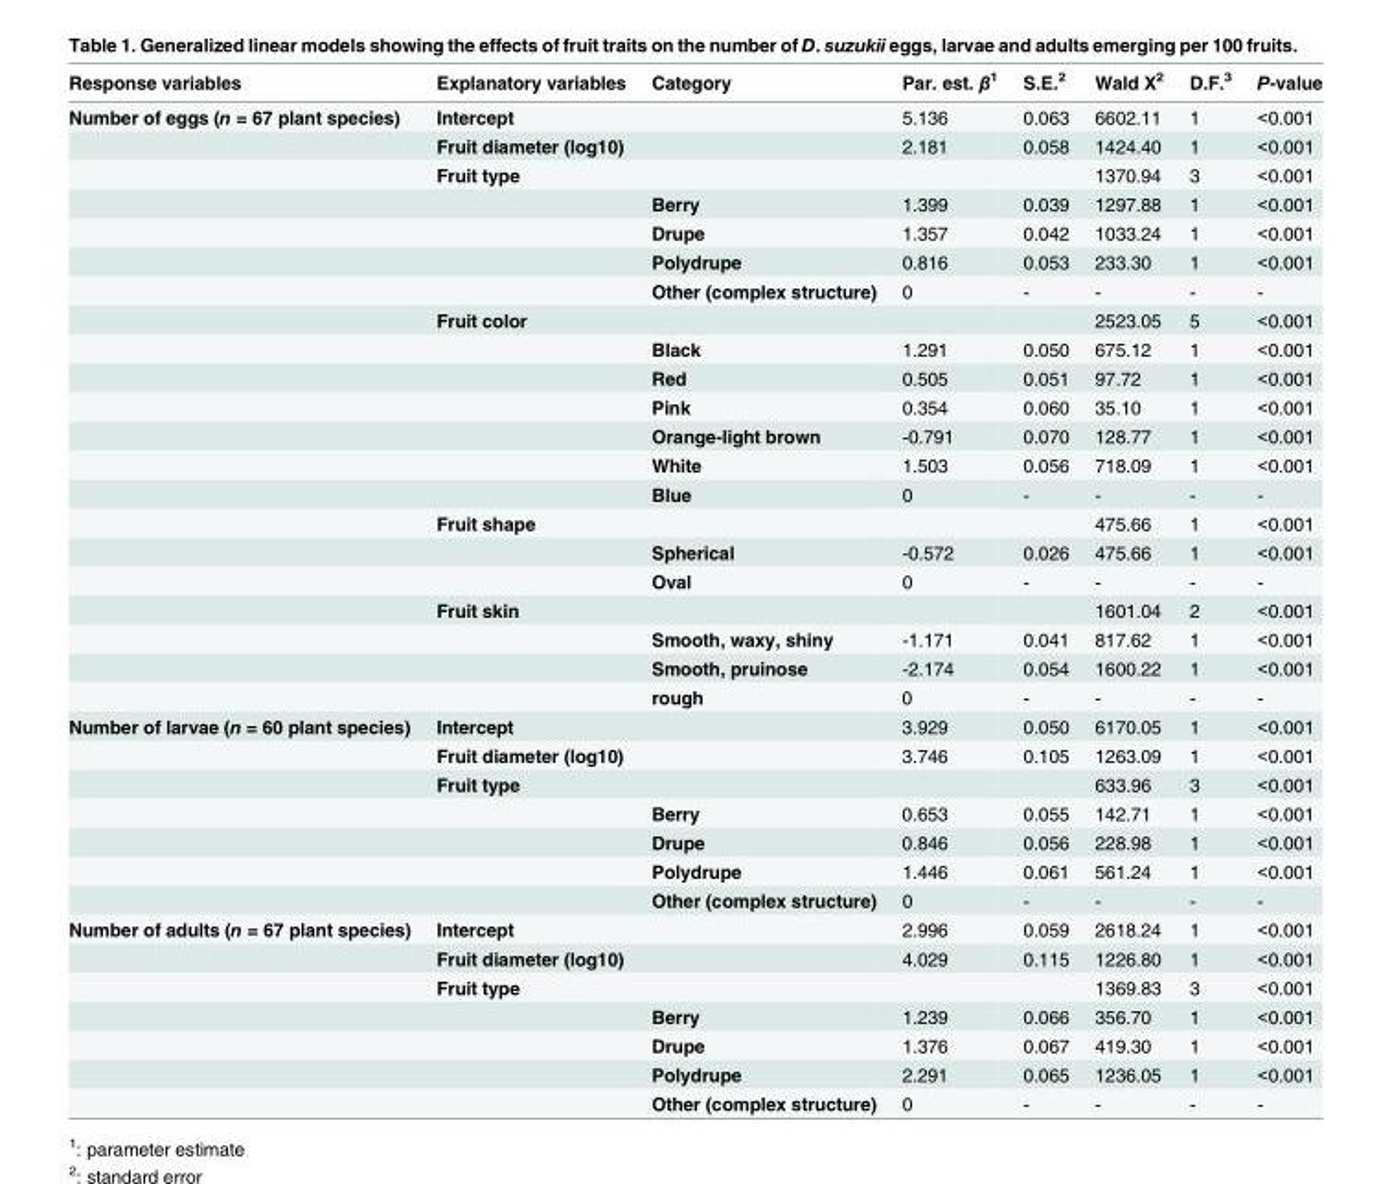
<table><thead><tr><td>Response variables</td><td>Explanatory variables</td><td>Category</td><td>Par. est. β<sup>1</sup></td><td>S.E.<sup>2</sup></td><td>Wald X<sup>2</sup></td><td>D.F.<sup>3</sup></td><td>P-value</td></tr></thead><tbody><tr><td rowspan="21">Number of eggs (n = 67 plant species)</td><td>Intercept</td><td></td><td>5.136</td><td>0.063</td><td>6602.11</td><td>1</td><td>&lt;0.001</td></tr><tr><td>Fruit diameter (log10)</td><td></td><td>2.181</td><td>0.058</td><td>1424.40</td><td>1</td><td>&lt;0.001</td></tr><tr><td>Fruit type</td><td></td><td></td><td></td><td>1370.94</td><td>3</td><td>&lt;0.001</td></tr><tr><td></td><td>Berry</td><td>1.399</td><td>0.039</td><td>1297.88</td><td>1</td><td>&lt;0.001</td></tr><tr><td></td><td>Drupe</td><td>1.357</td><td>0.042</td><td>1033.24</td><td>1</td><td>&lt;0.001</td></tr><tr><td></td><td>Polydrupe</td><td>0.816</td><td>0.053</td><td>233.30</td><td>1</td><td>&lt;0.001</td></tr><tr><td></td><td>Other (complex structure)</td><td>0</td><td>-</td><td>-</td><td>-</td><td>-</td></tr><tr><td>Fruit color</td><td></td><td></td><td></td><td>2523.05</td><td>5</td><td>&lt;0.001</td></tr><tr><td></td><td>Black</td><td>1.291</td><td>0.050</td><td>675.12</td><td>1</td><td>&lt;0.001</td></tr><tr><td></td><td>Red</td><td>0.505</td><td>0.051</td><td>97.72</td><td>1</td><td>&lt;0.001</td></tr><tr><td></td><td>Pink</td><td>0.354</td><td>0.060</td><td>35.10</td><td>1</td><td>&lt;0.001</td></tr><tr><td></td><td>Orange-light brown</td><td>-0.791</td><td>0.070</td><td>128.77</td><td>1</td><td>&lt;0.001</td></tr><tr><td></td><td>White</td><td>1.503</td><td>0.056</td><td>718.09</td><td>1</td><td>&lt;0.001</td></tr><tr><td></td><td>Blue</td><td>0</td><td>-</td><td>-</td><td>-</td><td>-</td></tr><tr><td>Fruit shape</td><td></td><td></td><td></td><td>475.66</td><td>1</td><td>&lt;0.001</td></tr><tr><td></td><td>Spherical</td><td>-0.572</td><td>0.026</td><td>475.66</td><td>1</td><td>&lt;0.001</td></tr><tr><td></td><td>Oval</td><td>0</td><td>-</td><td>-</td><td>-</td><td>-</td></tr><tr><td>Fruit skin</td><td></td><td></td><td></td><td>1601.04</td><td>2</td><td>&lt;0.001</td></tr><tr><td></td><td>Smooth, waxy, shiny</td><td>-1.171</td><td>0.041</td><td>817.62</td><td>1</td><td>&lt;0.001</td></tr><tr><td></td><td>Smooth, pruinose</td><td>-2.174</td><td>0.054</td><td>1600.22</td><td>1</td><td>&lt;0.001</td></tr><tr><td></td><td>rough</td><td>0</td><td>-</td><td>-</td><td>-</td><td>-</td></tr><tr><td rowspan="7">Number of larvae (n = 60 plant species)</td><td>Intercept</td><td></td><td>3.929</td><td>0.050</td><td>6170.05</td><td>1</td><td>&lt;0.001</td></tr><tr><td>Fruit diameter (log10)</td><td></td><td>3.746</td><td>0.105</td><td>1263.09</td><td>1</td><td>&lt;0.001</td></tr><tr><td>Fruit type</td><td></td><td></td><td></td><td>633.96</td><td>3</td><td>&lt;0.001</td></tr><tr><td></td><td>Berry</td><td>0.653</td><td>0.055</td><td>142.71</td><td>1</td><td>&lt;0.001</td></tr><tr><td></td><td>Drupe</td><td>0.846</td><td>0.056</td><td>228.98</td><td>1</td><td>&lt;0.001</td></tr><tr><td></td><td>Polydrupe</td><td>1.446</td><td>0.061</td><td>561.24</td><td>1</td><td>&lt;0.001</td></tr><tr><td></td><td>Other (complex structure)</td><td>0</td><td>-</td><td>-</td><td>-</td><td>-</td></tr><tr><td rowspan="7">Number of adults (n = 67 plant species)</td><td>Intercept</td><td></td><td>2.996</td><td>0.059</td><td>2618.24</td><td>1</td><td>&lt;0.001</td></tr><tr><td>Fruit diameter (log10)</td><td></td><td>4.029</td><td>0.115</td><td>1226.80</td><td>1</td><td>&lt;0.001</td></tr><tr><td>Fruit type</td><td></td><td></td><td></td><td>1369.83</td><td>3</td><td>&lt;0.001</td></tr><tr><td></td><td>Berry</td><td>1.239</td><td>0.066</td><td>356.70</td><td>1</td><td>&lt;0.001</td></tr><tr><td></td><td>Drupe</td><td>1.376</td><td>0.067</td><td>419.30</td><td>1</td><td>&lt;0.001</td></tr><tr><td></td><td>Polydrupe</td><td>2.291</td><td>0.065</td><td>1236.05</td><td>1</td><td>&lt;0.001</td></tr><tr><td></td><td>Other (complex structure)</td><td>0</td><td>-</td><td>-</td><td>-</td><td>-</td></tr></tbody></table>